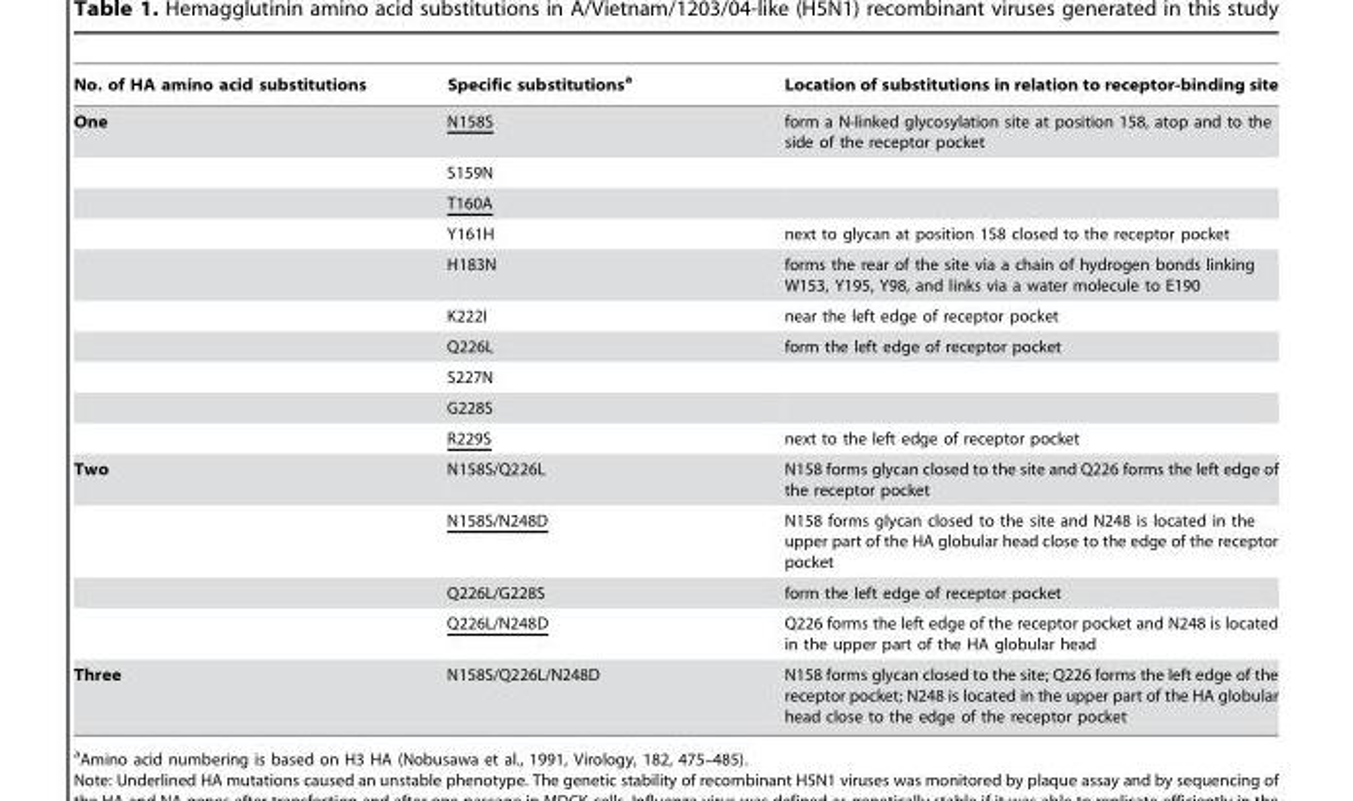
<table><thead><tr><td>No. of HA amino acid substitutions</td><td>Specific substitutions<sup>a</sup></td><td>Location of substitutions in relation to receptor-binding site</td></tr></thead><tbody><tr><td rowspan="10">One</td><td>N158S</td><td>form a N-linked glycosylation site at position 158, atop and to the side of the receptor pocket</td></tr><tr><td>S159N</td><td></td></tr><tr><td>T160A</td><td></td></tr><tr><td>Y161H</td><td>next to glycan at position 158 closed to the receptor pocket</td></tr><tr><td>H183N</td><td>forms the rear of the site via a chain of hydrogen bonds linking W153, Y195, Y98, and links via a water molecule to E190</td></tr><tr><td>K222I</td><td>near the left edge of receptor pocket</td></tr><tr><td>Q226L</td><td>form the left edge of receptor pocket</td></tr><tr><td>S227N</td><td></td></tr><tr><td>G228S</td><td></td></tr><tr><td>R229S</td><td>next to the left edge of receptor pocket</td></tr><tr><td rowspan="4">Two</td><td>N158S/Q226L</td><td>N158 forms glycan closed to the site and Q226 forms the left edge of the receptor pocket</td></tr><tr><td>N158S/N248D</td><td>N158 forms glycan closed to the site and N248 is located in the upper part of the HA globular head close to the edge of the receptor pocket</td></tr><tr><td>Q226L/G228S</td><td>form the left edge of receptor pocket</td></tr><tr><td>Q226L/N248D</td><td>Q226 forms the left edge of the receptor pocket and N248 is located in the upper part of the HA globular head</td></tr><tr><td>Three</td><td>N158S/Q226L/N248D</td><td>N158 forms glycan closed to the site; Q226 forms the left edge of the receptor pocket; N248 is located in the upper part of the HA globular head close to the edge of the receptor pocket</td></tr></tbody></table>